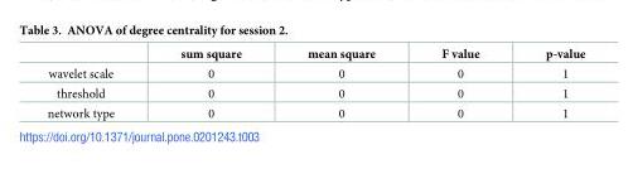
<table><thead><tr><td></td><td>sum square</td><td>mean square</td><td>F value</td><td>p-value</td></tr></thead><tbody><tr><td>wavelet scale</td><td>0</td><td>0</td><td>0</td><td>1</td></tr><tr><td>threshold</td><td>0</td><td>0</td><td>0</td><td>1</td></tr><tr><td>network type</td><td>0</td><td>0</td><td>0</td><td>1</td></tr></tbody></table>